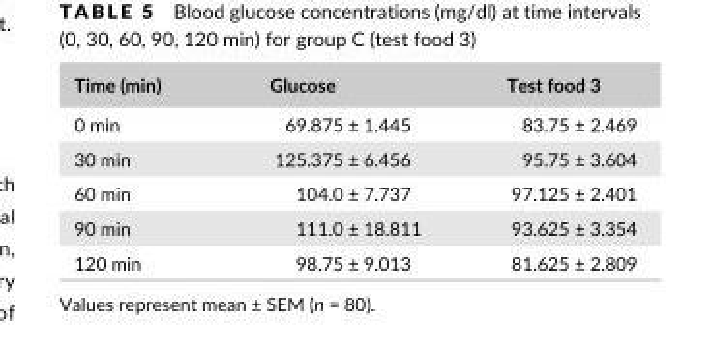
<table><thead><tr><td>Time (min)</td><td>Glucose</td><td>Test food 3</td></tr></thead><tbody><tr><td>0 min</td><td>69.875 ± 1.445</td><td>83.75 ± 2.469</td></tr><tr><td>30 min</td><td>125.375 ± 6.456</td><td>95.75 ± 3.604</td></tr><tr><td>60 min</td><td>104.0 ± 7.737</td><td>97.125 ± 2.401</td></tr><tr><td>90 min</td><td>111.0 ± 18.811</td><td>93.625 ± 3.354</td></tr><tr><td>120 min</td><td>98.75 ± 9.013</td><td>81.625 ± 2.809</td></tr></tbody></table>